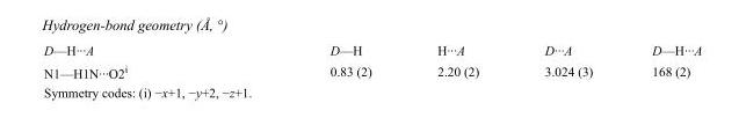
<table><tbody><tr><td>D—H···A</td><td>D—H</td><td>H···A</td><td>D···A</td><td>D—H···A</td></tr><tr><td>N1—H1N···O2<sup>i</sup></td><td>0.83 (2)</td><td>2.20 (2)</td><td>3.024 (3)</td><td>168 (2)</td></tr></tbody></table>